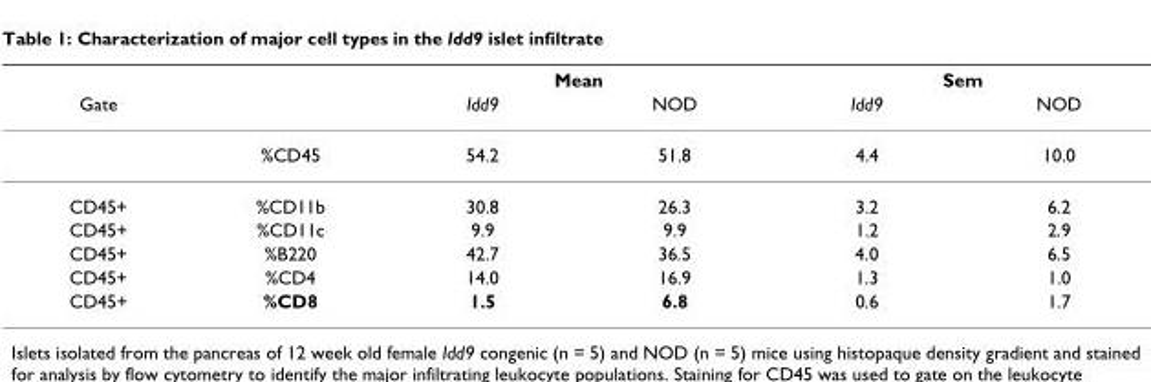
<table><thead><tr><td rowspan="2">Gate</td><td rowspan="2"></td><td colspan="2">Mean</td><td colspan="2">Sem</td></tr><tr><td>Idd9</td><td>NOD</td><td>Idd9</td><td>NOD</td></tr></thead><tbody><tr><td></td><td>%CD45</td><td>54.2</td><td>51.8</td><td>4.4</td><td>10.0</td></tr><tr><td>CD45+</td><td>%CD11b</td><td>30.8</td><td>26.3</td><td>3.2</td><td>6.2</td></tr><tr><td>CD45+</td><td>%CD11c</td><td>9.9</td><td>9.9</td><td>1.2</td><td>2.9</td></tr><tr><td>CD45+</td><td>%B220</td><td>42.7</td><td>36.5</td><td>4.0</td><td>6.5</td></tr><tr><td>CD45+</td><td>%CD4</td><td>14.0</td><td>16.9</td><td>1.3</td><td>1.0</td></tr><tr><td>CD45+</td><td>%CD8</td><td>1.5</td><td>6.8</td><td>0.6</td><td>1.7</td></tr></tbody></table>